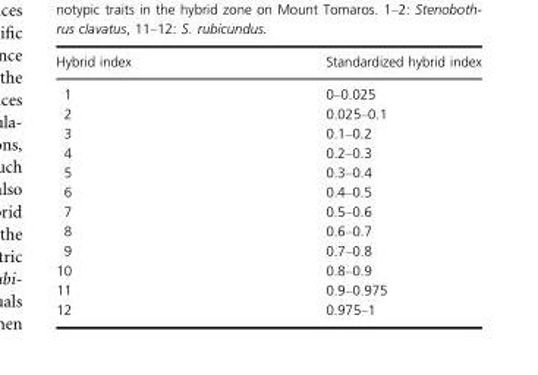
<table><thead><tr><td>Hybrid index</td><td>Standardized hybrid index</td></tr></thead><tbody><tr><td>1</td><td>0–0.025</td></tr><tr><td>2</td><td>0.025–0.1</td></tr><tr><td>3</td><td>0.1–0.2</td></tr><tr><td>4</td><td>0.2–0.3</td></tr><tr><td>5</td><td>0.3–0.4</td></tr><tr><td>6</td><td>0.4–0.5</td></tr><tr><td>7</td><td>0.5–0.6</td></tr><tr><td>8</td><td>0.6–0.7</td></tr><tr><td>9</td><td>0.7–0.8</td></tr><tr><td>10</td><td>0.8–0.9</td></tr><tr><td>11</td><td>0.9–0.975</td></tr><tr><td>12</td><td>0.975–1</td></tr></tbody></table>